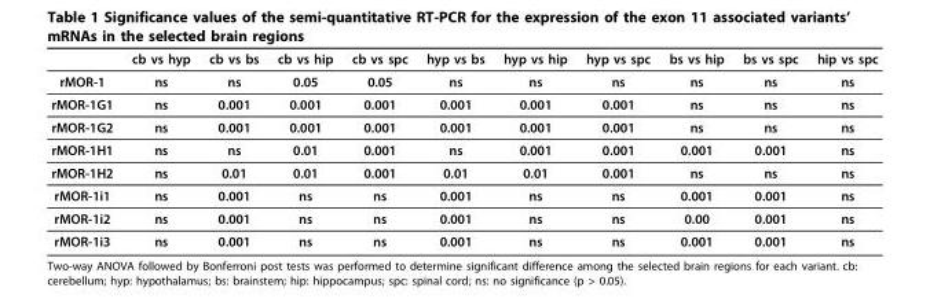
<table><thead><tr><td></td><td>cb vs hyp</td><td>cb vs bs</td><td>cb vs hip</td><td>cb vs spc</td><td>hyp vs bs</td><td>hyp vs hip</td><td>hyp vs spc</td><td>bs vs hip</td><td>bs vs spc</td><td>hip vs spc</td></tr></thead><tbody><tr><td>rMOR-1</td><td>ns</td><td>ns</td><td>0.05</td><td>0.05</td><td>ns</td><td>ns</td><td>ns</td><td>ns</td><td>ns</td><td>ns</td></tr><tr><td>rMOR-1G1</td><td>ns</td><td>0.001</td><td>0.001</td><td>0.001</td><td>0.001</td><td>0.001</td><td>0.001</td><td>ns</td><td>ns</td><td>ns</td></tr><tr><td>rMOR-1G2</td><td>ns</td><td>0.001</td><td>0.001</td><td>0.001</td><td>0.001</td><td>0.001</td><td>0.001</td><td>ns</td><td>ns</td><td>ns</td></tr><tr><td>rMOR-1H1</td><td>ns</td><td>ns</td><td>0.01</td><td>0.001</td><td>ns</td><td>0.001</td><td>0.001</td><td>0.001</td><td>0.001</td><td>ns</td></tr><tr><td>rMOR-1H2</td><td>ns</td><td>0.01</td><td>0.01</td><td>0.001</td><td>0.01</td><td>0.01</td><td>0.001</td><td>ns</td><td>ns</td><td>ns</td></tr><tr><td>rMOR-1i1</td><td>ns</td><td>0.001</td><td>ns</td><td>ns</td><td>0.001</td><td>ns</td><td>ns</td><td>0.001</td><td>0.001</td><td>ns</td></tr><tr><td>rMOR-1i2</td><td>ns</td><td>0.001</td><td>ns</td><td>ns</td><td>0.001</td><td>ns</td><td>ns</td><td>0.00</td><td>0.001</td><td>ns</td></tr><tr><td>rMOR-1i3</td><td>ns</td><td>0.001</td><td>ns</td><td>ns</td><td>0.001</td><td>ns</td><td>ns</td><td>0.001</td><td>0.001</td><td>ns</td></tr></tbody></table>